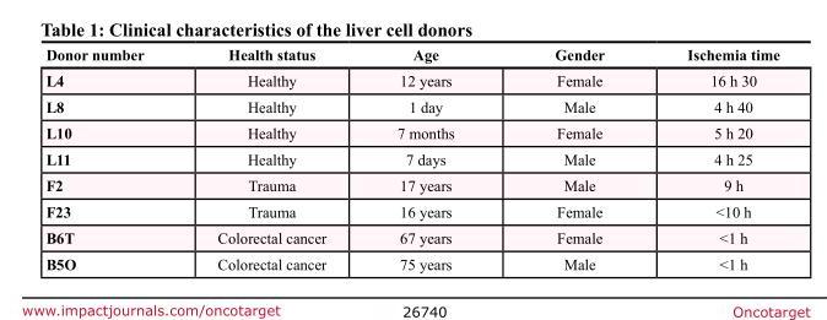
<table><thead><tr><td>Donor number</td><td>Health status</td><td>Age</td><td>Gender</td><td>Ischemia time</td></tr></thead><tbody><tr><td>L4</td><td>Healthy</td><td>12 years</td><td>Female</td><td>16 h 30</td></tr><tr><td>L8</td><td>Healthy</td><td>1 day</td><td>Male</td><td>4 h 40</td></tr><tr><td>L10</td><td>Healthy</td><td>7 months</td><td>Female</td><td>5 h 20</td></tr><tr><td>L11</td><td>Healthy</td><td>7 days</td><td>Male</td><td>4 h 25</td></tr><tr><td>F2</td><td>Trauma</td><td>17 years</td><td>Male</td><td>9 h</td></tr><tr><td>F23</td><td>Trauma</td><td>16 years</td><td>Female</td><td>&lt;10 h</td></tr><tr><td>B6T</td><td>Colorectal cancer</td><td>67 years</td><td>Female</td><td>&lt;1 h</td></tr><tr><td>B5O</td><td>Colorectal cancer</td><td>75 years</td><td>Male</td><td>&lt;1 h</td></tr></tbody></table>